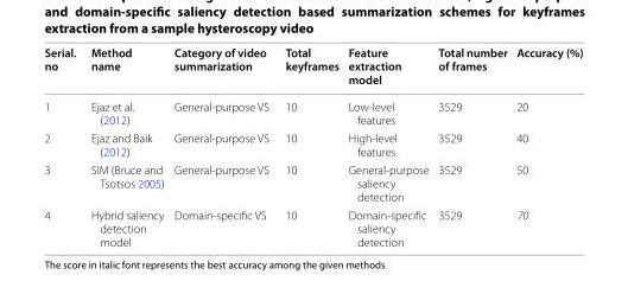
<table><thead><tr><td>Serial. no</td><td>Method name</td><td>Category of video summarization</td><td>Total keyframes</td><td>Feature extraction model</td><td>Total number of frames</td><td>Accuracy (%)</td></tr></thead><tbody><tr><td>1</td><td>Ejaz et al. (2012)</td><td>General-purpose VS</td><td>10</td><td>Low-level features</td><td>3529</td><td>20</td></tr><tr><td>2</td><td>Ejaz and Baik (2012)</td><td>General-purpose VS</td><td>10</td><td>High-level features</td><td>3529</td><td>40</td></tr><tr><td>3</td><td>SIM (Bruce and Tsotsos 2005)</td><td>General-purpose VS</td><td>10</td><td>General-purpose saliency detection</td><td>3529</td><td>50</td></tr><tr><td>4</td><td>Hybrid saliency detection model</td><td>Domain-specific VS</td><td>10</td><td>Domain-specific saliency detection</td><td>3529</td><td>70</td></tr></tbody></table>